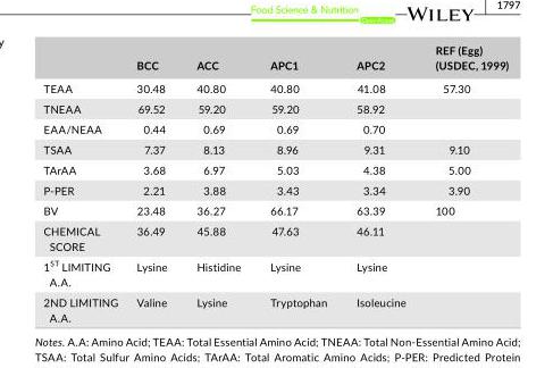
<table><thead><tr><td></td><td>BCC</td><td>ACC</td><td>APC1</td><td>APC2</td><td>REF (Egg) (USDEC, 1999)</td></tr></thead><tbody><tr><td>TEAA</td><td>30.48</td><td>40.80</td><td>40.80</td><td>41.08</td><td>57.30</td></tr><tr><td>TNEAA</td><td>69.52</td><td>59.20</td><td>59.20</td><td>58.92</td><td></td></tr><tr><td>EAA/NEAA</td><td>0.44</td><td>0.69</td><td>0.69</td><td>0.70</td><td></td></tr><tr><td>TSAA</td><td>7.37</td><td>8.13</td><td>8.96</td><td>9.31</td><td>9.10</td></tr><tr><td>TArAA</td><td>3.68</td><td>6.97</td><td>5.03</td><td>4.38</td><td>5.00</td></tr><tr><td>P- PER</td><td>2.21</td><td>3.88</td><td>3.43</td><td>3.34</td><td>3.90</td></tr><tr><td>BV</td><td>23.48</td><td>36.27</td><td>66.17</td><td>63.39</td><td>100</td></tr><tr><td>CHEMICAL SCORE</td><td>36.49</td><td>45.88</td><td>47.63</td><td>46.11</td><td></td></tr><tr><td>1<sup>ST</sup> LIMITING A.A.</td><td>Lysine</td><td>Histidine</td><td>Lysine</td><td>Lysine</td><td></td></tr><tr><td>2ND LIMITING A.A.</td><td>Valine</td><td>Lysine</td><td>Tryptophan</td><td>Isoleucine</td><td></td></tr></tbody></table>